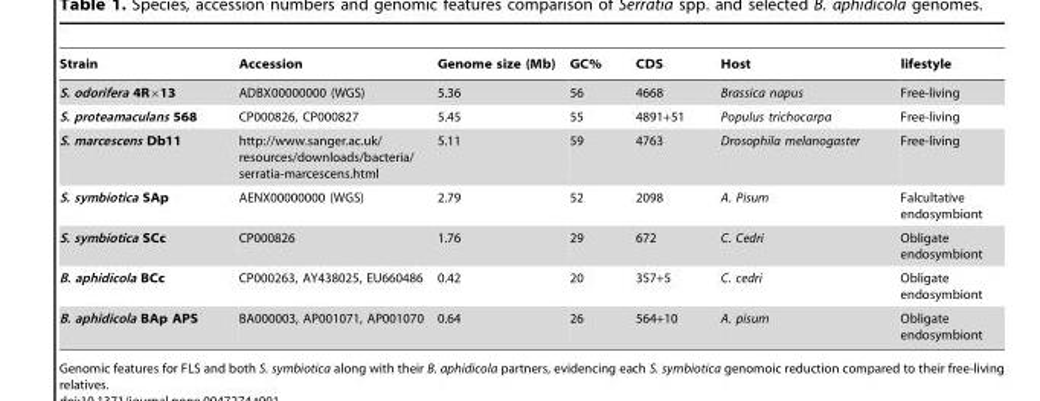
<table><thead><tr><td>Strain</td><td>Accession</td><td>Genome size (Mb)</td><td>GC%</td><td>CDS</td><td>Host</td><td>lifestyle</td></tr></thead><tbody><tr><td>S. odorifera 4R×13</td><td>ADBX00000000 (WGS)</td><td>5.36</td><td>56</td><td>4668</td><td>Brassica napus</td><td>Free-living</td></tr><tr><td>S. proteamaculans 568</td><td>CP000826, CP000827</td><td>5.45</td><td>55</td><td>4891+51</td><td>Populus trichocarpa</td><td>Free-living</td></tr><tr><td>S. marcescens Db11</td><td>http://www.sanger.ac.uk/ resources/downloads/bacteria/ serratia-marcescens.html</td><td>5.11</td><td>59</td><td>4763</td><td>Drosophila melanogaster</td><td>Free-living</td></tr><tr><td>S. symbiotica SAp</td><td>AENX00000000 (WGS)</td><td>2.79</td><td>52</td><td>2098</td><td>A. Pisum</td><td>Falcultative endosymbiont</td></tr><tr><td>S. symbiotica SCc</td><td>CP000826</td><td>1.76</td><td>29</td><td>672</td><td>C. Cedri</td><td>Obligate endosymbiont</td></tr><tr><td>B. aphidicola BCc</td><td>CP000263, AY438025, EU660486</td><td>0.42</td><td>20</td><td>357+5</td><td>C. cedri</td><td>Obligate endosymbiont</td></tr><tr><td>B. aphidicola BAp APS</td><td>BA000003, AP001071, AP001070</td><td>0.64</td><td>26</td><td>564+10</td><td>A. pisum</td><td>Obligate endosymbiont</td></tr></tbody></table>